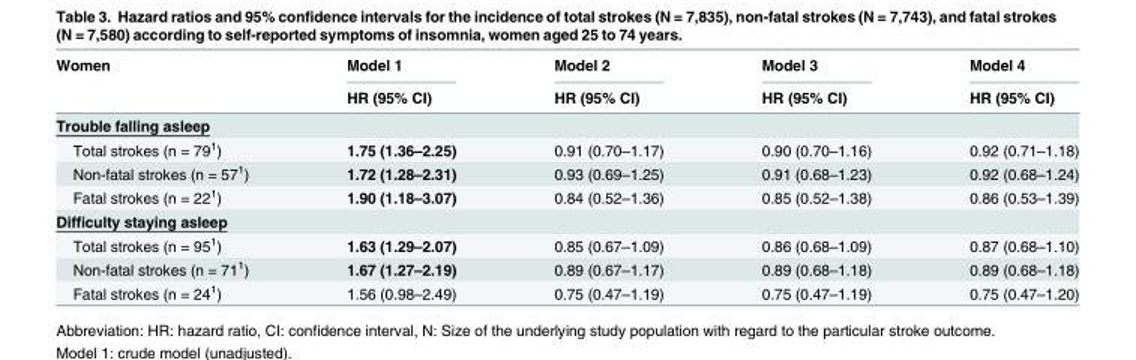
<table><thead><tr><td rowspan="2">Women</td><td rowspan="2">Model 1 HR (95% CI)</td><td rowspan="2">Model 2 HR (95% CI)</td><td rowspan="2">Model 3 HR (95% CI)</td><td rowspan="2">Model 4 HR (95% CI)</td></tr><tr></tr></thead><tbody><tr><td colspan="5">Trouble falling asleep</td></tr><tr><td>Total strokes (n = 79<sup>1</sup>)</td><td>1.75 (1.36–2.25)</td><td>0.91 (0.70–1.17)</td><td>0.90 (0.70–1.16)</td><td>0.92 (0.71–1.18)</td></tr><tr><td>Non-fatal strokes (n = 57<sup>1</sup>)</td><td>1.72 (1.28–2.31)</td><td>0.93 (0.69–1.25)</td><td>0.91 (0.68–1.23)</td><td>0.92 (0.68–1.24)</td></tr><tr><td>Fatal strokes (n = 22<sup>1</sup>)</td><td>1.90 (1.18–3.07)</td><td>0.84 (0.52–1.36)</td><td>0.85 (0.52–1.38)</td><td>0.86 (0.53–1.39)</td></tr><tr><td colspan="5">Difficulty staying asleep</td></tr><tr><td>Total strokes (n = 95<sup>1</sup>)</td><td>1.63 (1.29–2.07)</td><td>0.85 (0.67–1.09)</td><td>0.86 (0.68–1.09)</td><td>0.87 (0.68–1.10)</td></tr><tr><td>Non-fatal strokes (n = 71<sup>1</sup>)</td><td>1.67 (1.27–2.19)</td><td>0.89 (0.67–1.17)</td><td>0.89 (0.68–1.18)</td><td>0.89 (0.68–1.18)</td></tr><tr><td>Fatal strokes (n = 24<sup>1</sup>)</td><td>1.56 (0.98–2.49)</td><td>0.75 (0.47–1.19)</td><td>0.75 (0.47–1.19)</td><td>0.75 (0.47–1.20)</td></tr></tbody></table>